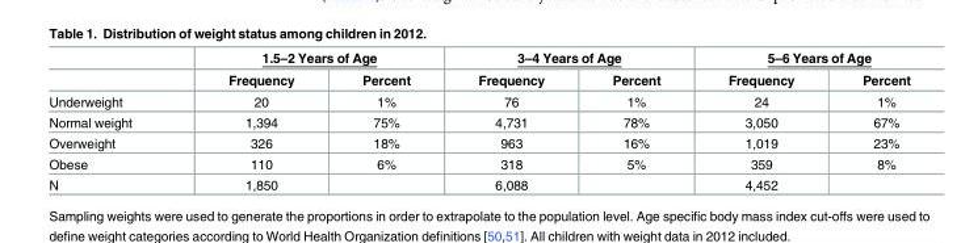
<table><thead><tr><td rowspan="2"></td><td colspan="2">1.5–2 Years of Age</td><td colspan="2">3–4 Years of Age</td><td colspan="2">5–6 Years of Age</td></tr><tr><td>Frequency</td><td>Percent</td><td>Frequency</td><td>Percent</td><td>Frequency</td><td>Percent</td></tr></thead><tbody><tr><td>Underweight</td><td>20</td><td>1%</td><td>76</td><td>1%</td><td>24</td><td>1%</td></tr><tr><td>Normal weight</td><td>1,394</td><td>75%</td><td>4,731</td><td>78%</td><td>3,050</td><td>67%</td></tr><tr><td>Overweight</td><td>326</td><td>18%</td><td>963</td><td>16%</td><td>1,019</td><td>23%</td></tr><tr><td>Obese</td><td>110</td><td>6%</td><td>318</td><td>5%</td><td>359</td><td>8%</td></tr><tr><td>N</td><td>1,850</td><td></td><td>6,088</td><td></td><td>4,452</td><td></td></tr></tbody></table>